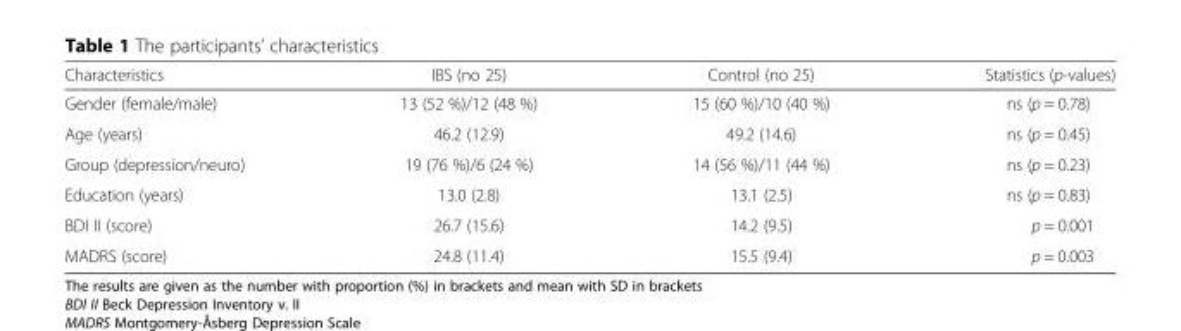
<table><thead><tr><td>Characteristics</td><td>IBS (no 25)</td><td>Control (no 25)</td><td>Statistics (p-values)</td></tr></thead><tbody><tr><td>Gender (female/male)</td><td>13 (52 %)/12 (48 %)</td><td>15 (60 %)/10 (40 %)</td><td>ns (p = 0.78)</td></tr><tr><td>Age (years)</td><td>46.2 (12.9)</td><td>49.2 (14.6)</td><td>ns (p = 0.45)</td></tr><tr><td>Group (depression/neuro)</td><td>19 (76 %)/6 (24 %)</td><td>14 (56 %)/11 (44 %)</td><td>ns (p = 0.23)</td></tr><tr><td>Education (years)</td><td>13.0 (2.8)</td><td>13.1 (2.5)</td><td>ns (p = 0.83)</td></tr><tr><td>BDI II (score)</td><td>26.7 (15.6)</td><td>14.2 (9.5)</td><td>p = 0.001</td></tr><tr><td>MADRS (score)</td><td>24.8 (11.4)</td><td>15.5 (9.4)</td><td>p = 0.003</td></tr></tbody></table>